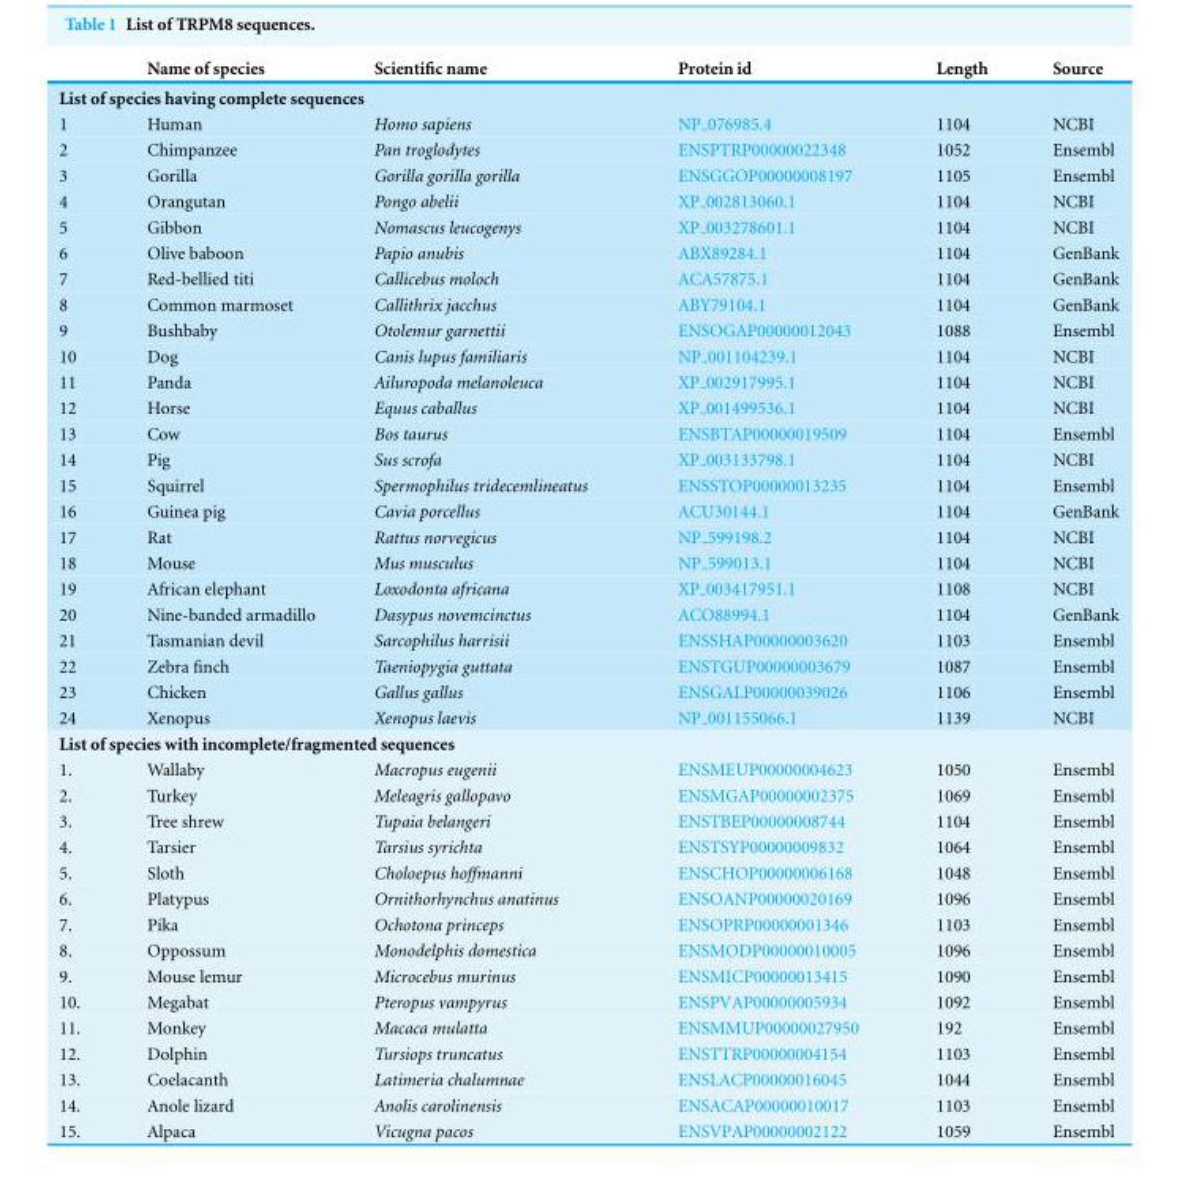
<table><thead><tr><td></td><td>Name of species</td><td>Scientific name</td><td>Protein id</td><td>Length</td><td>Source</td></tr></thead><tbody><tr><td colspan="6">List of species having complete sequences</td></tr><tr><td>1</td><td>Human</td><td>Homo sapiens</td><td>NP 076985.4</td><td>1104</td><td>NCBI</td></tr><tr><td>2</td><td>Chimpanzee</td><td>Pan troglodytes</td><td>ENSPTRP00000022348</td><td>1052</td><td>Ensembl</td></tr><tr><td>3</td><td>Gorilla</td><td>Gorilla gorilla gorilla</td><td>ENSGGOP00000008197</td><td>1105</td><td>Ensembl</td></tr><tr><td>4</td><td>Orangutan</td><td>Pongo abelii</td><td>XP 002813060.1</td><td>1104</td><td>NCBI</td></tr><tr><td>5</td><td>Gibbon</td><td>Nomascus leucogenys</td><td>XP 003278601.1</td><td>1104</td><td>NCBI</td></tr><tr><td>6</td><td>Olive baboon</td><td>Papio anubis</td><td>ABX89284.1</td><td>1104</td><td>GenBank</td></tr><tr><td>7</td><td>Red-bellied titi</td><td>Callicebus moloch</td><td>ACA57875.1</td><td>1104</td><td>GenBank</td></tr><tr><td>8</td><td>Common marmoset</td><td>Callithrix jacchus</td><td>ABY79104.1</td><td>1104</td><td>GenBank</td></tr><tr><td>9</td><td>Bushbaby</td><td>Otolemur garnettii</td><td>ENSOGAP00000012043</td><td>1088</td><td>Ensembl</td></tr><tr><td>10</td><td>Dog</td><td>Canis lupus familiaris</td><td>NP 001104239.1</td><td>1104</td><td>NCBI</td></tr><tr><td>11</td><td>Panda</td><td>Ailuropoda melanoleuca</td><td>XP 002917995.1</td><td>1104</td><td>NCBI</td></tr><tr><td>12</td><td>Horse</td><td>Equus caballus</td><td>XP 001499536.1</td><td>1104</td><td>NCBI</td></tr><tr><td>13</td><td>Cow</td><td>Bos taurus</td><td>ENSBTAP00000019509</td><td>1104</td><td>Ensembl</td></tr><tr><td>14</td><td>Pig</td><td>Sus scrofa</td><td>XP 003133798.1</td><td>1104</td><td>NCBI</td></tr><tr><td>15</td><td>Squirrel</td><td>Spermophilus tridecemlineatus</td><td>ENSSTOP00000013235</td><td>1104</td><td>Ensembl</td></tr><tr><td>16</td><td>Guinea pig</td><td>Cavia porcellus</td><td>ACU30144.1</td><td>1104</td><td>GenBank</td></tr><tr><td>17</td><td>Rat</td><td>Rattus norvegicus</td><td>NP 599198.2</td><td>1104</td><td>NCBI</td></tr><tr><td>18</td><td>Mouse</td><td>Mus musculus</td><td>NP 599013.1</td><td>1104</td><td>NCBI</td></tr><tr><td>19</td><td>African elephant</td><td>Loxodonta africana</td><td>XP 003417951.1</td><td>1108</td><td>NCBI</td></tr><tr><td>20</td><td>Nine-banded armadillo</td><td>Dasypus novemcinctus</td><td>ACO88994.1</td><td>1104</td><td>GenBank</td></tr><tr><td>21</td><td>Tasmanian devil</td><td>Sarcophilus harrisii</td><td>ENSSHAP00000003620</td><td>1103</td><td>Ensembl</td></tr><tr><td>22</td><td>Zebra finch</td><td>Taeniopygia guttata</td><td>ENSTGUP00000003679</td><td>1087</td><td>Ensembl</td></tr><tr><td>23</td><td>Chicken</td><td>Gallus gallus</td><td>ENSGALP00000039026</td><td>1106</td><td>Ensembl</td></tr><tr><td>24</td><td>Xenopus</td><td>Xenopus laevis</td><td>NP 001155066.1</td><td>1139</td><td>NCBI</td></tr><tr><td colspan="6">List of species with incomplete/fragmented sequences</td></tr><tr><td>1.</td><td>Wallaby</td><td>Macropus eugenii</td><td>ENSMEUP00000004623</td><td>1050</td><td>Ensembl</td></tr><tr><td>2.</td><td>Turkey</td><td>Meleagris gallopavo</td><td>ENSMGAP00000002375</td><td>1069</td><td>Ensembl</td></tr><tr><td>3.</td><td>Tree shrew</td><td>Tupaia belangeri</td><td>ENSTBEP00000008744</td><td>1104</td><td>Ensembl</td></tr><tr><td>4.</td><td>Tarsier</td><td>Tarsius syrichta</td><td>ENSTSYP00000009832</td><td>1064</td><td>Ensembl</td></tr><tr><td>5.</td><td>Sloth</td><td>Choloepus hoffmanni</td><td>ENSCHOP00000006168</td><td>1048</td><td>Ensembl</td></tr><tr><td>6.</td><td>Platypus</td><td>Ornithorhynchus anatinus</td><td>ENSOANP00000020169</td><td>1096</td><td>Ensembl</td></tr><tr><td>7.</td><td>Pika</td><td>Ochotona princeps</td><td>ENSOPRP00000001346</td><td>1103</td><td>Ensembl</td></tr><tr><td>8.</td><td>Oppossum</td><td>Monodelphis domestica</td><td>ENSMODP00000010005</td><td>1096</td><td>Ensembl</td></tr><tr><td>9.</td><td>Mouse lemur</td><td>Microcebus murinus</td><td>ENSMICP00000013415</td><td>1090</td><td>Ensembl</td></tr><tr><td>10.</td><td>Megabat</td><td>Pteropus vampyrus</td><td>ENSPVAP00000005934</td><td>1092</td><td>Ensembl</td></tr><tr><td>11.</td><td>Monkey</td><td>Macaca mulatta</td><td>ENSMMUP00000027950</td><td>192</td><td>Ensembl</td></tr><tr><td>12.</td><td>Dolphin</td><td>Tursiops truncatus</td><td>ENSTTRP00000004154</td><td>1103</td><td>Ensembl</td></tr><tr><td>13.</td><td>Coelacanth</td><td>Latimeria chalumnae</td><td>ENSLACP00000016045</td><td>1044</td><td>Ensembl</td></tr><tr><td>14.</td><td>Anole lizard</td><td>Anolis carolinensis</td><td>ENSACAP00000010017</td><td>1103</td><td>Ensembl</td></tr><tr><td>15.</td><td>Alpaca</td><td>Vicugna pacos</td><td>ENSVPAP00000002122</td><td>1059</td><td>Ensembl</td></tr></tbody></table>